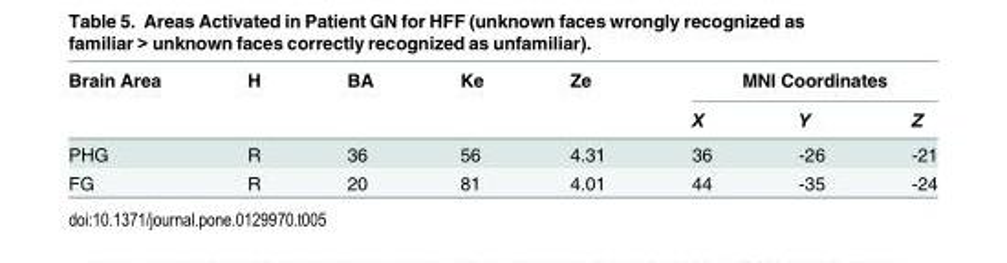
<table><thead><tr><td rowspan="2">Brain Area</td><td rowspan="2">H</td><td rowspan="2">BA</td><td rowspan="2">Ke</td><td rowspan="2">Ze</td><td colspan="3">MNI Coordinates</td></tr><tr><td>X</td><td>Y</td><td>Z</td></tr></thead><tbody><tr><td>PHG</td><td>R</td><td>36</td><td>56</td><td>4.31</td><td>36</td><td>-26</td><td>-21</td></tr><tr><td>FG</td><td>R</td><td>20</td><td>81</td><td>4.01</td><td>44</td><td>-35</td><td>-24</td></tr></tbody></table>